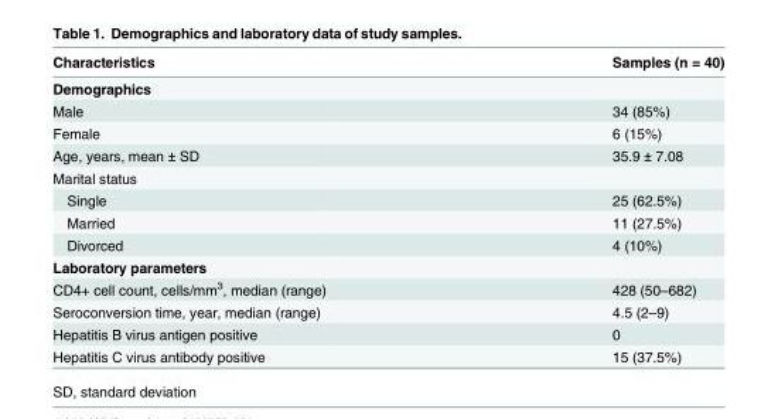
<table><thead><tr><td>Characteristics</td><td>Samples (n = 40)</td></tr></thead><tbody><tr><td colspan="2">Demographics</td></tr><tr><td>Male</td><td>34 (85%)</td></tr><tr><td>Female</td><td>6 (15%)</td></tr><tr><td>Age, years, mean ± SD</td><td>35.9 ± 7.08</td></tr><tr><td colspan="2">Marital status</td></tr><tr><td>Single</td><td>25 (62.5%)</td></tr><tr><td>Married</td><td>11 (27.5%)</td></tr><tr><td>Divorced</td><td>4 (10%)</td></tr><tr><td colspan="2">Laboratory parameters</td></tr><tr><td>CD4+ cell count, cells/mm<sup>3</sup>, median (range)</td><td>428 (50–682)</td></tr><tr><td>Seroconversion time, year, median (range)</td><td>4.5 (2–9)</td></tr><tr><td>Hepatitis B virus antigen positive</td><td>0</td></tr><tr><td>Hepatitis C virus antibody positive</td><td>15 (37.5%)</td></tr></tbody></table>